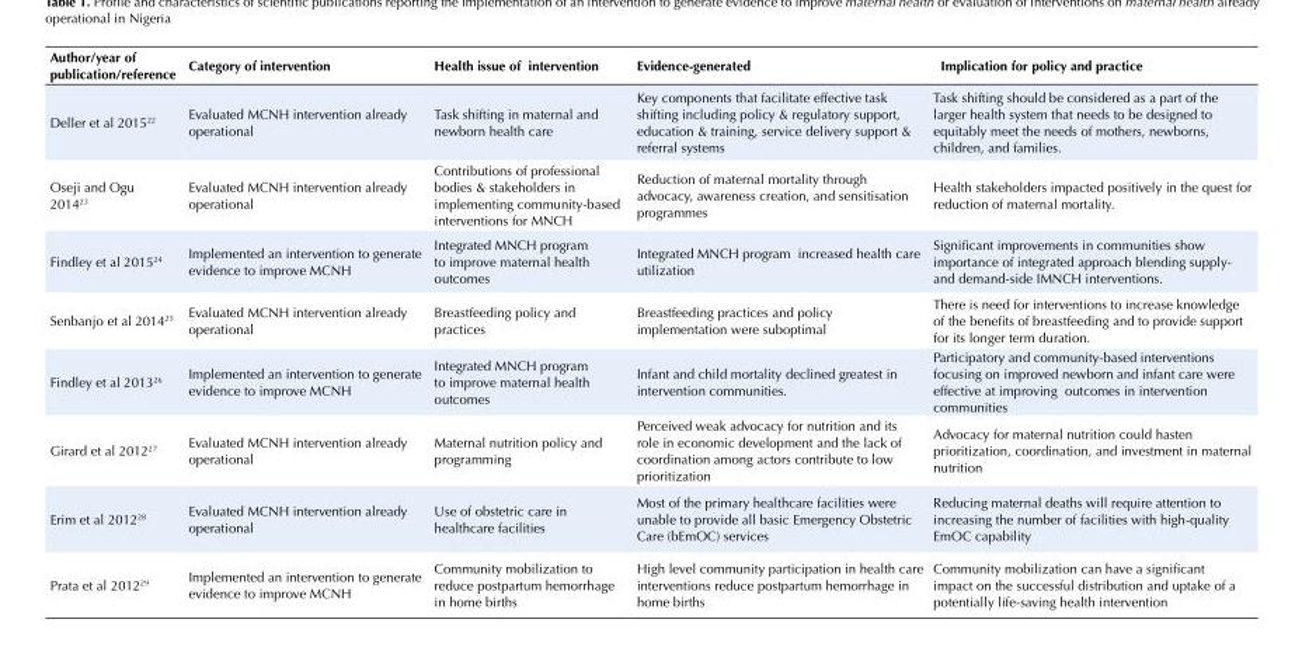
<table><tbody><tr><td>Author/year of publication/reference</td><td>Category of intervention</td><td>Health issue of intervention</td><td>Evidence-generated</td><td>Implication for policy and practice</td></tr><tr><td>Deller et al 2015<sup>22</sup></td><td>Evaluated MCNH intervention already operational</td><td>Task shifting in maternal and newborn health care</td><td>Key components that facilitate effective task shifting including policy &amp; regulatory support, education &amp; training, service delivery support &amp; referral systems</td><td>Task shifting should be considered as a part of the larger health system that needs to be designed to equitably meet the needs of mothers, newborns, children, and families.</td></tr><tr><td>Oseji and Ogu 2014<sup>23</sup></td><td>Evaluated MCNH intervention already operational</td><td>Contributions of professional bodies &amp; stakeholders in implementing community-based interventions for MNCH</td><td>Reduction of maternal mortality through advocacy, awareness creation, and sensitisation programmes</td><td>Health stakeholders impacted positively in the quest for reduction of maternal mortality.</td></tr><tr><td>Findley et al 2015<sup>24</sup></td><td>Implemented an intervention to generate evidence to improve MCNH</td><td>Integrated MNCH program to improve maternal health outcomes</td><td>Integrated MNCH program increased health care utilization</td><td>Significant improvements in communities show importance of integrated approach blending supply- and demand-side IMNCH interventions.</td></tr><tr><td>Senbanjo et al 2014<sup>25</sup></td><td>Evaluated MCNH intervention already operational</td><td>Breastfeeding policy and practices</td><td>Breastfeeding practices and policy implementation were suboptimal</td><td>There is need for interventions to increase knowledge of the benefits of breastfeeding and to provide support for its longer term duration.</td></tr><tr><td>Findley et al 2013<sup>26</sup></td><td>Implemented an intervention to generate evidence to improve MCNH</td><td>Integrated MNCH program to improve maternal health outcomes</td><td>Infant and child mortality declined greatest in intervention communities.</td><td>Participatory and community-based interventions focusing on improved newborn and infant care were effective at improving outcomes in intervention communities</td></tr><tr><td>Girard et al 2012<sup>27</sup></td><td>Evaluated MCNH intervention already operational</td><td>Maternal nutrition policy and programming</td><td>Perceived weak advocacy for nutrition and its role in economic development and the lack of coordination among actors contribute to low prioritization</td><td>Advocacy for maternal nutrition could hasten prioritization, coordination, and investment in maternal nutrition</td></tr><tr><td>Erim et al 2012<sup>28</sup></td><td>Evaluated MCNH intervention already operational</td><td>Use of obstetric care in healthcare facilities</td><td>Most of the primary healthcare facilities were unable to provide all basic Emergency Obstetric Care (bEmOC) services</td><td>Reducing maternal deaths will require attention to increasing the number of facilities with high-quality EmOC capability</td></tr><tr><td>Prata et al 2012<sup>29</sup></td><td>Implemented an intervention to generate evidence to improve MCNH</td><td>Community mobilization to reduce postpartum hemorrhage in home births</td><td>High level community participation in health care interventions reduce postpartum hemorrhage in home births</td><td>Community mobilization can have a significant impact on the successful distribution and uptake of a potentially life-saving health intervention</td></tr></tbody></table>